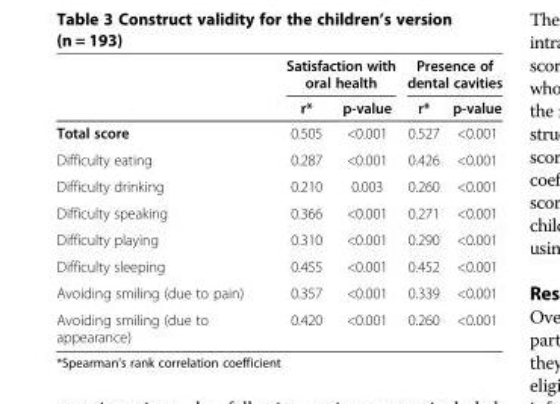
<table><thead><tr><td rowspan="2"></td><td colspan="2">Satisfaction with oral health</td><td colspan="2">Presence of dental cavities</td></tr><tr><td>r*</td><td>p-value</td><td>r*</td><td>p-value</td></tr></thead><tbody><tr><td>Total score</td><td>0.505</td><td>&lt;0.001</td><td>0.527</td><td>&lt;0.001</td></tr><tr><td>Difficulty eating</td><td>0.287</td><td>&lt;0.001</td><td>0.426</td><td>&lt;0.001</td></tr><tr><td>Difficulty drinking</td><td>0.210</td><td>0.003</td><td>0.260</td><td>&lt;0.001</td></tr><tr><td>Difficulty speaking</td><td>0.366</td><td>&lt;0.001</td><td>0.271</td><td>&lt;0.001</td></tr><tr><td>Difficulty playing</td><td>0.310</td><td>&lt;0.001</td><td>0.290</td><td>&lt;0.001</td></tr><tr><td>Difficulty sleeping</td><td>0.455</td><td>&lt;0.001</td><td>0.452</td><td>&lt;0.001</td></tr><tr><td>Avoiding smiling (due to pain)</td><td>0.357</td><td>&lt;0.001</td><td>0.339</td><td>&lt;0.001</td></tr><tr><td>Avoiding smiling (due to appearance)</td><td>0.420</td><td>&lt;0.001</td><td>0.260</td><td>&lt;0.001</td></tr></tbody></table>